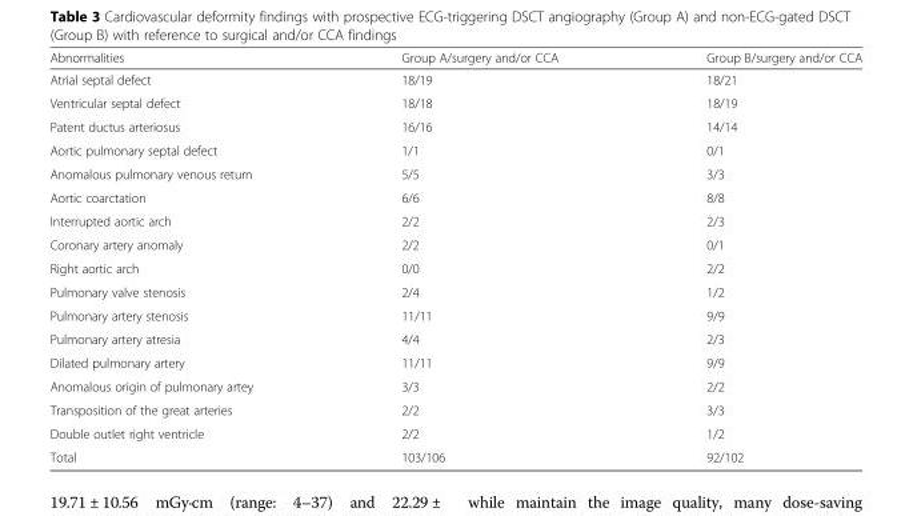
<table><thead><tr><td>Abnormalities</td><td>Group A/surgery and/or CCA</td><td>Group B/surgery and/or CCA</td></tr></thead><tbody><tr><td>Atrial septal defect</td><td>18/19</td><td>18/21</td></tr><tr><td>Ventricular septal defect</td><td>18/18</td><td>18/19</td></tr><tr><td>Patent ductus arteriosus</td><td>16/16</td><td>14/14</td></tr><tr><td>Aortic pulmonary septal defect</td><td>1/1</td><td>0/1</td></tr><tr><td>Anomalous pulmonary venous return</td><td>5/5</td><td>3/3</td></tr><tr><td>Aortic coarctation</td><td>6/6</td><td>8/8</td></tr><tr><td>Interrupted aortic arch</td><td>2/2</td><td>2/3</td></tr><tr><td>Coronary artery anomaly</td><td>2/2</td><td>0/1</td></tr><tr><td>Right aortic arch</td><td>0/0</td><td>2/2</td></tr><tr><td>Pulmonary valve stenosis</td><td>2/4</td><td>1/2</td></tr><tr><td>Pulmonary artery stenosis</td><td>11/11</td><td>9/9</td></tr><tr><td>Pulmonary artery atresia</td><td>4/4</td><td>2/3</td></tr><tr><td>Dilated pulmonary artery</td><td>11/11</td><td>9/9</td></tr><tr><td>Anomalous origin of pulmonary artey</td><td>3/3</td><td>2/2</td></tr><tr><td>Transposition of the great arteries</td><td>2/2</td><td>3/3</td></tr><tr><td>Double outlet right ventricle</td><td>2/2</td><td>1/2</td></tr><tr><td>Total</td><td>103/106</td><td>92/102</td></tr></tbody></table>